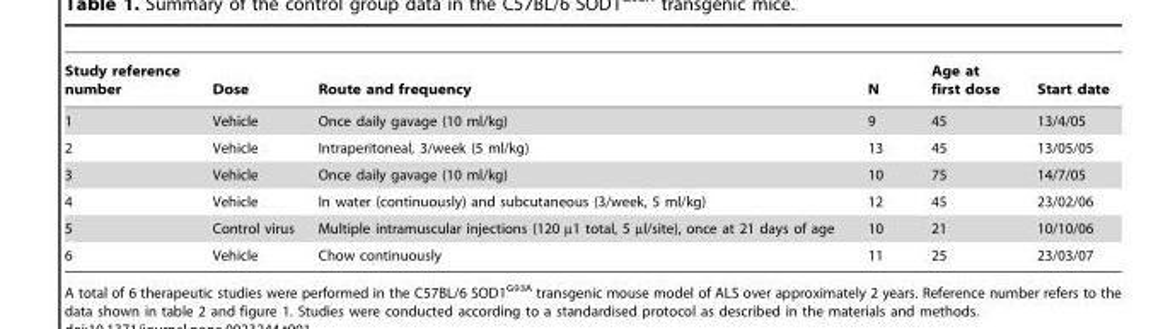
<table><thead><tr><td>Study reference number</td><td>Dose</td><td>Route and frequency</td><td>N</td><td>Age at first dose</td><td>Start date</td></tr></thead><tbody><tr><td>1</td><td>Vehicle</td><td>Once daily gavage (10 ml/kg)</td><td>9</td><td>45</td><td>13/4/05</td></tr><tr><td>2</td><td>Vehicle</td><td>Intraperitoneal, 3/week (5 ml/kg)</td><td>13</td><td>45</td><td>13/05/05</td></tr><tr><td>3</td><td>Vehicle</td><td>Once daily gavage (10 ml/kg)</td><td>10</td><td>75</td><td>14/7/05</td></tr><tr><td>4</td><td>Vehicle</td><td>In water (continuously) and subcutaneous (3/week, 5 ml/kg)</td><td>12</td><td>45</td><td>23/02/06</td></tr><tr><td>5</td><td>Control virus</td><td>Multiple intramuscular injections (120 µ1 total, 5 µl/site), once at 21 days of age</td><td>10</td><td>21</td><td>10/10/06</td></tr><tr><td>6</td><td>Vehicle</td><td>Chow continuously</td><td>11</td><td>25</td><td>23/03/07</td></tr></tbody></table>